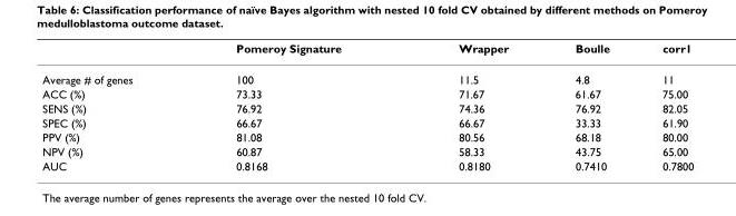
<table><thead><tr><td></td><td>Pomeroy Signature</td><td>Wrapper</td><td>Boulle</td><td>corr1</td></tr></thead><tbody><tr><td>Average # of genes</td><td>100</td><td>11.5</td><td>4.8</td><td>11</td></tr><tr><td>ACC (%)</td><td>73.33</td><td>71.67</td><td>61.67</td><td>75.00</td></tr><tr><td>SENS (%)</td><td>76.92</td><td>74.36</td><td>76.92</td><td>82.05</td></tr><tr><td>SPEC (%)</td><td>66.67</td><td>66.67</td><td>33.33</td><td>61.90</td></tr><tr><td>PPV (%)</td><td>81.08</td><td>80.56</td><td>68.18</td><td>80.00</td></tr><tr><td>NPV (%)</td><td>60.87</td><td>58.33</td><td>43.75</td><td>65.00</td></tr><tr><td>AUC</td><td>0.8168</td><td>0.8180</td><td>0.7410</td><td>0.7800</td></tr></tbody></table>